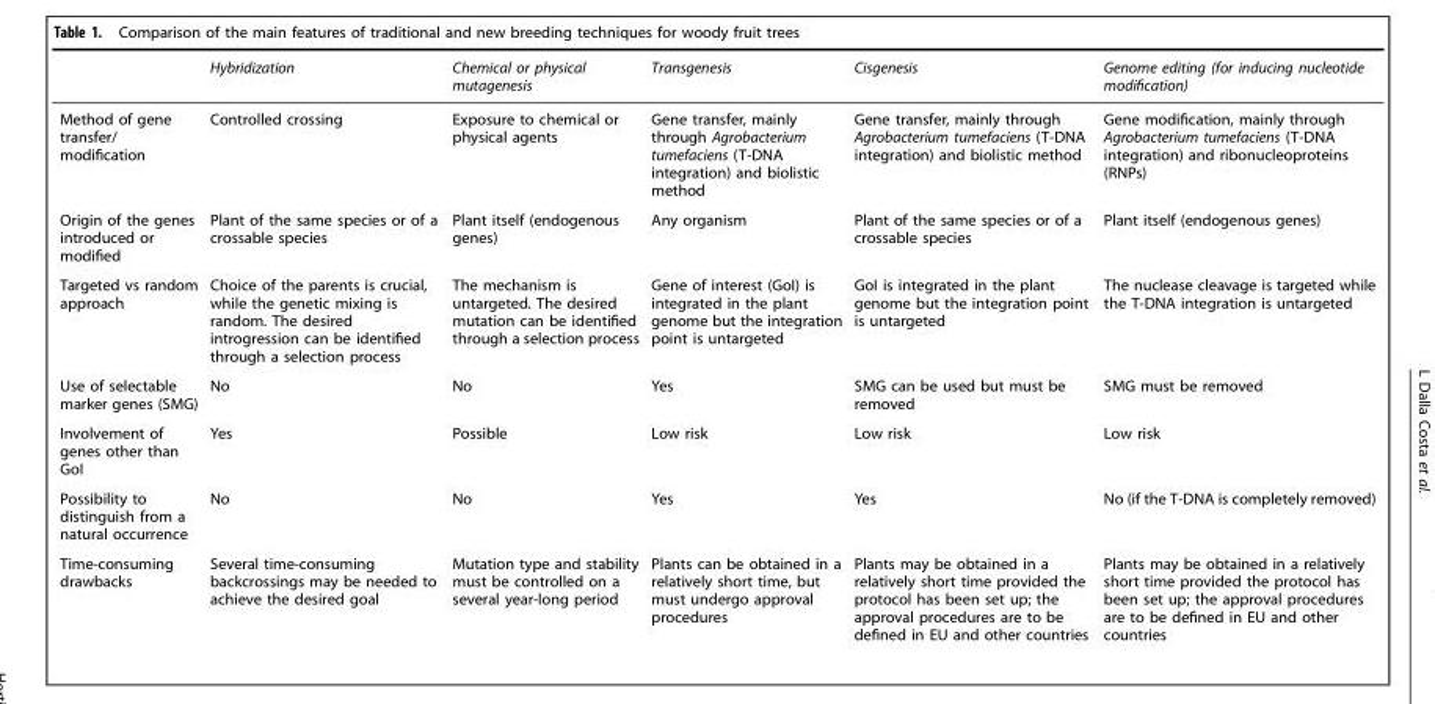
<table><thead><tr><td></td><td>Hybridization</td><td>Chemical or physical mutagenesis</td><td>Transgenesis</td><td>Cisgenesis</td><td>Genome editing (for inducing nucleotide modification)</td></tr></thead><tbody><tr><td>Method of gene transfer/ modification</td><td>Controlled crossing</td><td>Exposure to chemical or physical agents</td><td>Gene transfer, mainly through Agrobacterium tumefaciens (T-DNA integration) and biolistic method</td><td>Gene transfer, mainly through Agrobacterium tumefaciens (T-DNA integration) and biolistic method</td><td>Gene modification, mainly through Agrobacterium tumefaciens (T-DNA integration) and ribonucleoproteins (RNPs)</td></tr><tr><td>Origin of the genes introduced or modified</td><td>Plant of the same species or of a crossable species</td><td>Plant itself (endogenous genes)</td><td>Any organism</td><td>Plant of the same species or of a crossable species</td><td>Plant itself (endogenous genes)</td></tr><tr><td>Targeted vs random approach</td><td>Choice of the parents is crucial, while the genetic mixing is random. The desired introgression can be identified through a selection process</td><td>The mechanism is untargeted. The desired mutation can be identified through a selection process</td><td>Gene of interest (GoI) is integrated in the plant genome but the integration point is untargeted</td><td>GoI is integrated in the plant genome but the integration point is untargeted</td><td>The nuclease cleavage is targeted while the T-DNA integration is untargeted</td></tr><tr><td>Use of selectable marker genes (SMG)</td><td>No</td><td>No</td><td>Yes</td><td>SMG can be used but must be removed</td><td>SMG must be removed</td></tr><tr><td>Involvement of genes other than GoI</td><td>Yes</td><td>Possible</td><td>Low risk</td><td>Low risk</td><td>Low risk</td></tr><tr><td>Possibility to distinguish from a natural occurrence</td><td>No</td><td>No</td><td>Yes</td><td>Yes</td><td>No (if the T-DNA is completely removed)</td></tr><tr><td>Time-consuming drawbacks</td><td>Several time-consuming backcrossings may be needed to achieve the desired goal</td><td>Mutation type and stability must be controlled on a several year-long period</td><td>Plants can be obtained in a relatively short time, but must undergo approval procedures</td><td>Plants may be obtained in a relatively short time provided the protocol has been set up; the approval procedures are to be defined in EU and other countries</td><td>Plants may be obtained in a relatively short time provided the protocol has been set up; the approval procedures are to be defined in EU and other countries</td></tr></tbody></table>